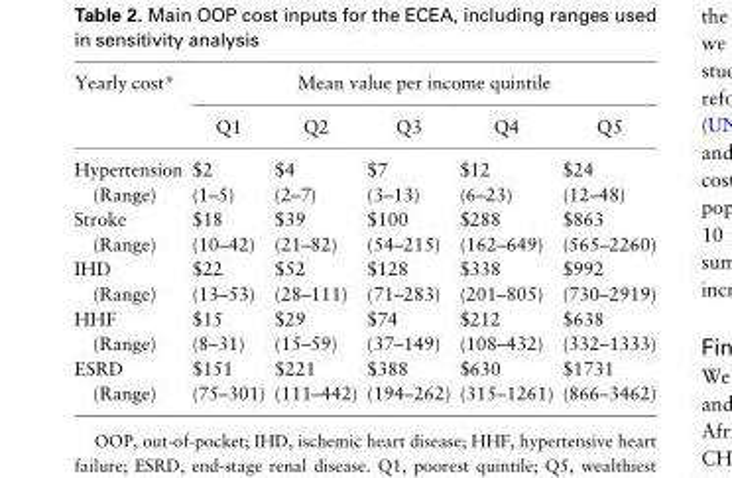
<table><thead><tr><td rowspan="2">Yearly cost*</td><td colspan="5">Mean value per income quintile</td></tr><tr><td>Q1</td><td>Q2</td><td>Q3</td><td>Q4</td><td>Q5</td></tr></thead><tbody><tr><td>Hypertension</td><td>$2</td><td>$4</td><td>$7</td><td>$12</td><td>$24</td></tr><tr><td>(Range)</td><td>(1–5)</td><td>(2–7)</td><td>(3–13)</td><td>(6–23)</td><td>(12–48)</td></tr><tr><td>Stroke</td><td>$18</td><td>$39</td><td>$100</td><td>$288</td><td>$863</td></tr><tr><td>(Range)</td><td>(10–42)</td><td>(21–82)</td><td>(54–215)</td><td>(162–649)</td><td>(565–2260)</td></tr><tr><td>IHD</td><td>$22</td><td>$52</td><td>$128</td><td>$338</td><td>$992</td></tr><tr><td>(Range)</td><td>(13–53)</td><td>(28–111)</td><td>(71–283)</td><td>(201–805)</td><td>(730–2919)</td></tr><tr><td>HHF</td><td>$15</td><td>$29</td><td>$74</td><td>$212</td><td>$638</td></tr><tr><td>(Range)</td><td>(8–31)</td><td>(15–59)</td><td>(37–149)</td><td>(108–432)</td><td>(332–1333)</td></tr><tr><td>ESRD</td><td>$151</td><td>$221</td><td>$388</td><td>$630</td><td>$1731</td></tr><tr><td>(Range)</td><td>(75–301)</td><td>(111–442)</td><td>(194–262)</td><td>(315–1261)</td><td>(866–3462)</td></tr></tbody></table>